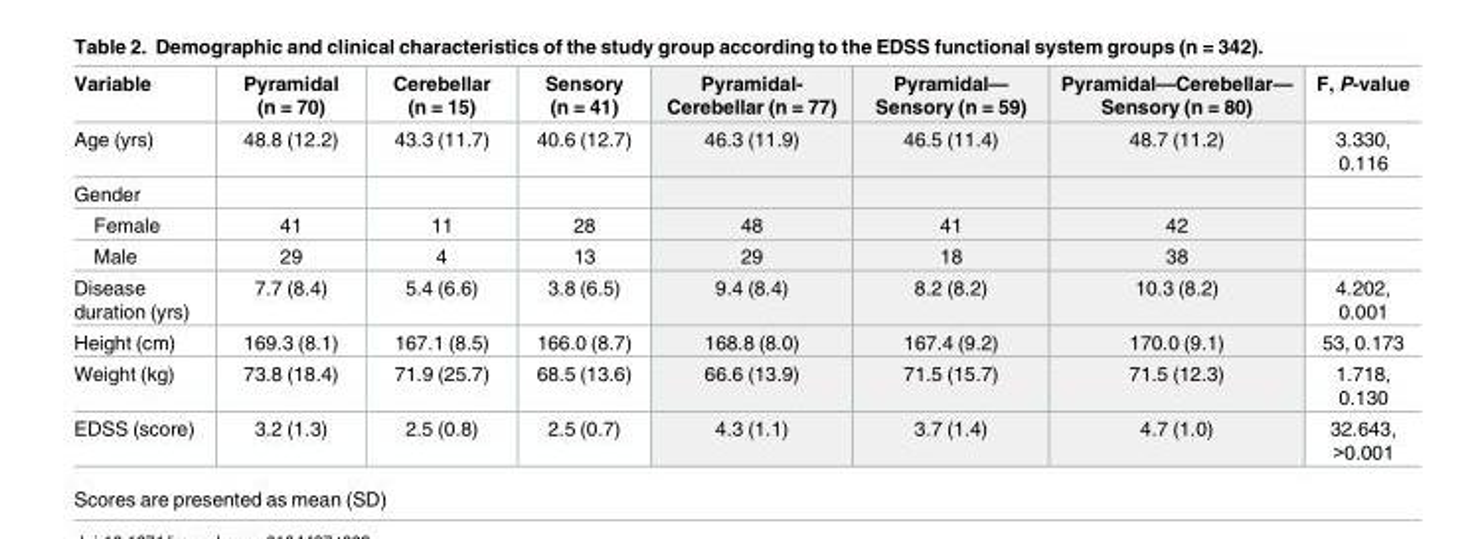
<table><thead><tr><td>Variable</td><td>Pyramidal (n = 70)</td><td>Cerebellar (n = 15)</td><td>Sensory (n = 41)</td><td>Pyramidal- Cerebellar (n = 77)</td><td>Pyramidal— Sensory (n = 59)</td><td>Pyramidal—Cerebellar— Sensory (n = 80)</td><td>F, P-value</td></tr></thead><tbody><tr><td>Age (yrs)</td><td>48.8 (12.2)</td><td>43.3 (11.7)</td><td>40.6 (12.7)</td><td>46.3 (11.9)</td><td>46.5 (11.4)</td><td>48.7 (11.2)</td><td>3.330, 0.116</td></tr><tr><td colspan="8">Gender</td></tr><tr><td>Female</td><td>41</td><td>11</td><td>28</td><td>48</td><td>41</td><td>42</td><td></td></tr><tr><td>Male</td><td>29</td><td>4</td><td>13</td><td>29</td><td>18</td><td>38</td><td></td></tr><tr><td>Disease duration (yrs)</td><td>7.7 (8.4)</td><td>5.4 (6.6)</td><td>3.8 (6.5)</td><td>9.4 (8.4)</td><td>8.2 (8.2)</td><td>10.3 (8.2)</td><td>4.202, 0.001</td></tr><tr><td>Height (cm)</td><td>169.3 (8.1)</td><td>167.1 (8.5)</td><td>166.0 (8.7)</td><td>168.8 (8.0)</td><td>167.4 (9.2)</td><td>170.0 (9.1)</td><td>53, 0.173</td></tr><tr><td>Weight (kg)</td><td>73.8 (18.4)</td><td>71.9 (25.7)</td><td>68.5 (13.6)</td><td>66.6 (13.9)</td><td>71.5 (15.7)</td><td>71.5 (12.3)</td><td>1.718, 0.130</td></tr><tr><td>EDSS (score)</td><td>3.2 (1.3)</td><td>2.5 (0.8)</td><td>2.5 (0.7)</td><td>4.3 (1.1)</td><td>3.7 (1.4)</td><td>4.7 (1.0)</td><td>32.643, &gt;0.001</td></tr></tbody></table>